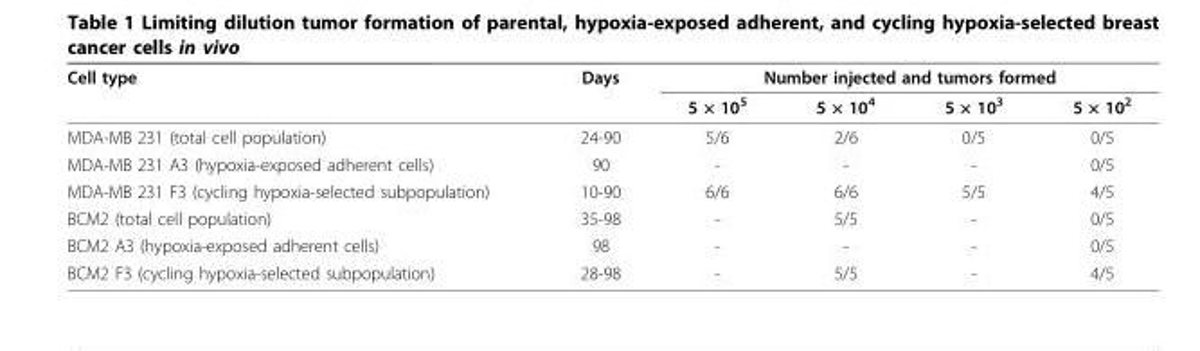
<table><thead><tr><td rowspan="2">Cell type</td><td rowspan="2">Days</td><td colspan="4">Number injected and tumors formed</td></tr><tr><td>5 × 10<sup>5</sup></td><td>5 × 10<sup>4</sup></td><td>5 × 10<sup>3</sup></td><td>5 × 10<sup>2</sup></td></tr></thead><tbody><tr><td>MDA-MB 231 (total cell population)</td><td>24-90</td><td>5/6</td><td>2/6</td><td>0/5</td><td>0/5</td></tr><tr><td>MDA-MB 231 A3 (hypoxia-exposed adherent cells)</td><td>90</td><td>-</td><td>-</td><td>-</td><td>0/5</td></tr><tr><td>MDA-MB 231 F3 (cycling hypoxia-selected subpopulation)</td><td>10-90</td><td>6/6</td><td>6/6</td><td>5/5</td><td>4/5</td></tr><tr><td>BCM2 (total cell population)</td><td>35-98</td><td>-</td><td>5/5</td><td>-</td><td>0/5</td></tr><tr><td>BCM2 A3 (hypoxia-exposed adherent cells)</td><td>98</td><td>-</td><td>-</td><td>-</td><td>0/5</td></tr><tr><td>BCM2 F3 (cycling hypoxia-selected subpopulation)</td><td>28-98</td><td>-</td><td>5/5</td><td>-</td><td>4/5</td></tr></tbody></table>